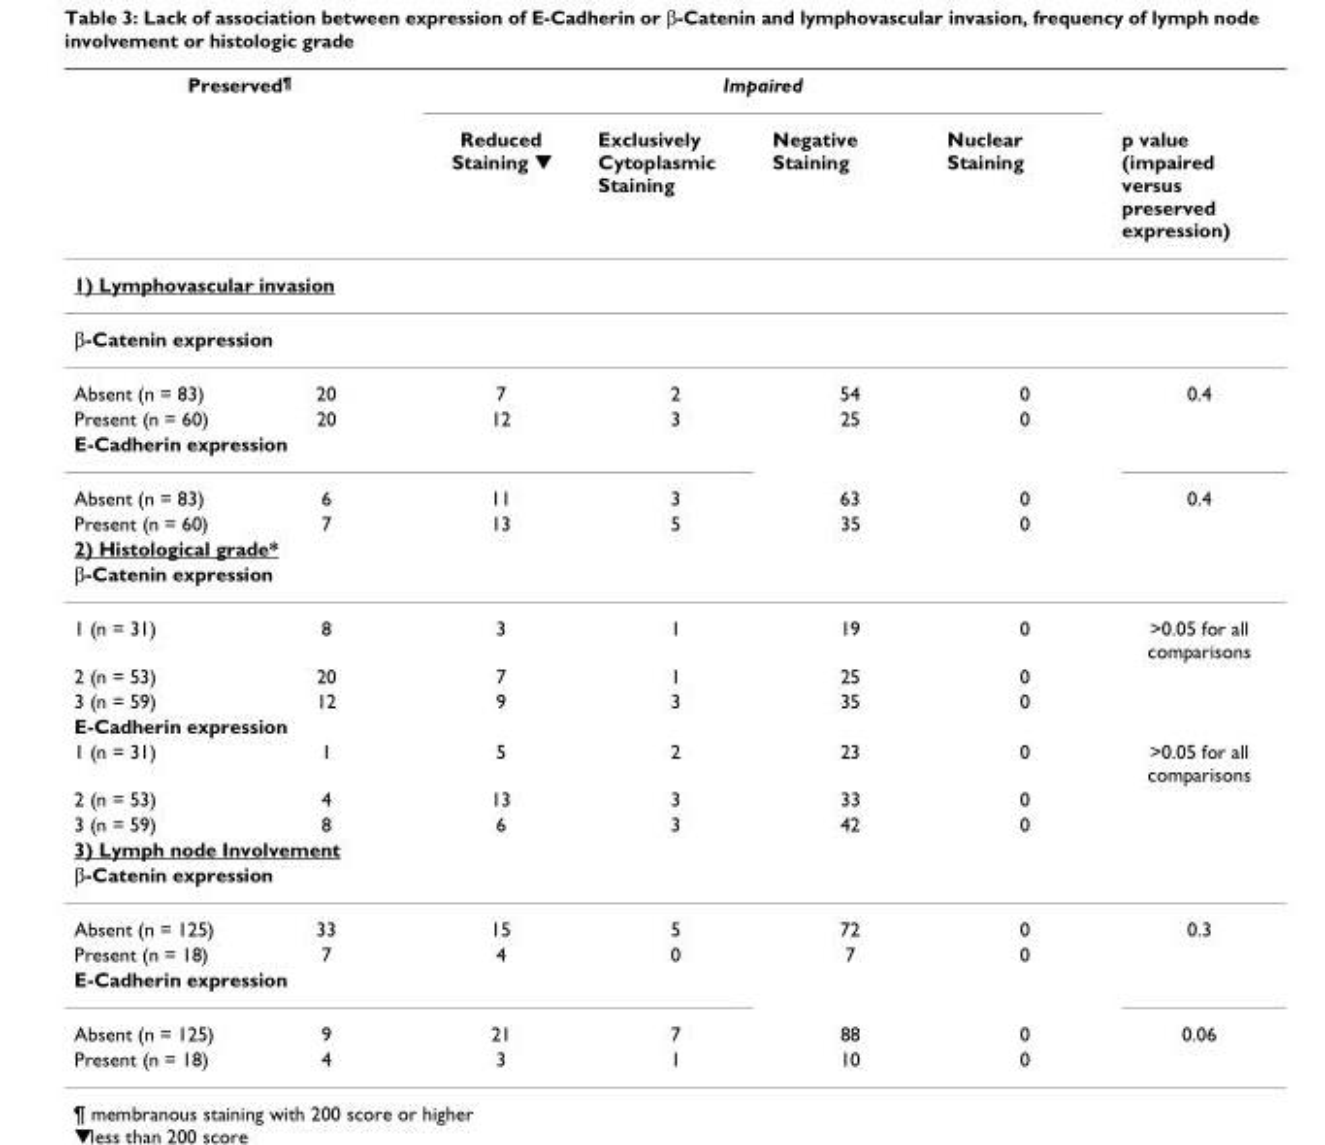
<table><thead><tr><td colspan="2">Preserved<sup>¶</sup></td><td colspan="4">Impaired</td><td rowspan="2">p value (impaired versus preserved expression)</td></tr><tr><td></td><td></td><td>Reduced Staining ▼</td><td>Exclusively Cytoplasmic Staining</td><td>Negative Staining</td><td>Nuclear Staining</td></tr></thead><tbody><tr><td colspan="7">1) Lymphovascular invasion</td></tr><tr><td colspan="7">β-Catenin expression</td></tr><tr><td>Absent (n = 83)</td><td>20</td><td>7</td><td>2</td><td>54</td><td>0</td><td>0.4</td></tr><tr><td>Present (n = 60)</td><td>20</td><td>12</td><td>3</td><td>25</td><td>0</td><td></td></tr><tr><td colspan="7">E-Cadherin expression</td></tr><tr><td>Absent (n = 83)</td><td>6</td><td>11</td><td>3</td><td>63</td><td>0</td><td>0.4</td></tr><tr><td>Present (n = 60)</td><td>7</td><td>13</td><td>5</td><td>35</td><td>0</td><td></td></tr><tr><td colspan="7">2) Histological grade*</td></tr><tr><td colspan="7">β-Catenin expression</td></tr><tr><td>1 (n = 31)</td><td>8</td><td>3</td><td>1</td><td>19</td><td>0</td><td>&gt;0.05 for all comparisons</td></tr><tr><td>2 (n = 53)</td><td>20</td><td>7</td><td>1</td><td>25</td><td>0</td><td></td></tr><tr><td>3 (n = 59)</td><td>12</td><td>9</td><td>3</td><td>35</td><td>0</td><td></td></tr><tr><td colspan="7">E-Cadherin expression</td></tr><tr><td>1 (n = 31)</td><td>1</td><td>5</td><td>2</td><td>23</td><td>0</td><td>&gt;0.05 for all comparisons</td></tr><tr><td>2 (n = 53)</td><td>4</td><td>13</td><td>3</td><td>33</td><td>0</td><td></td></tr><tr><td>3 (n = 59)</td><td>8</td><td>6</td><td>3</td><td>42</td><td>0</td><td></td></tr><tr><td colspan="7">3) Lymph node Involvement</td></tr><tr><td colspan="7">β-Catenin expression</td></tr><tr><td>Absent (n = 125)</td><td>33</td><td>15</td><td>5</td><td>72</td><td>0</td><td>0.3</td></tr><tr><td>Present (n = 18)</td><td>7</td><td>4</td><td>0</td><td>7</td><td>0</td><td></td></tr><tr><td colspan="7">E-Cadherin expression</td></tr><tr><td>Absent (n = 125)</td><td>9</td><td>21</td><td>7</td><td>88</td><td>0</td><td>0.06</td></tr><tr><td>Present (n = 18)</td><td>4</td><td>3</td><td>1</td><td>10</td><td>0</td><td></td></tr></tbody></table>